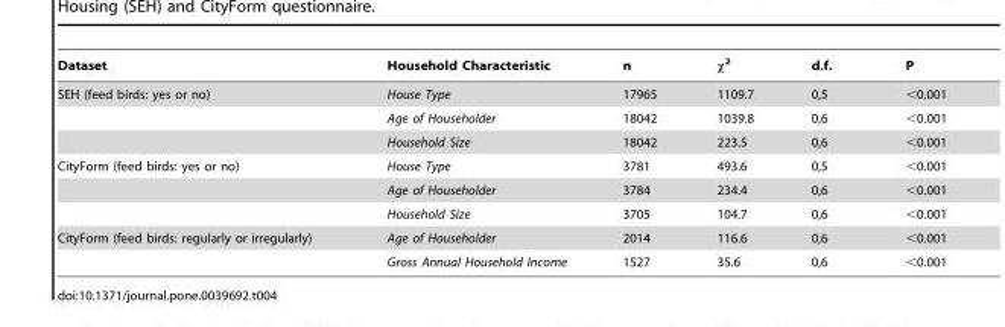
<table><thead><tr><td>Dataset</td><td>Household Characteristic</td><td>n</td><td>κ<sup>2</sup></td><td>d.f.</td><td>P</td></tr></thead><tbody><tr><td rowspan="3">SEH (feed birds: yes or no)</td><td>House Type</td><td>17965</td><td>1109.7</td><td>0,5</td><td>&lt;0.001</td></tr><tr><td>Age of Householder</td><td>18042</td><td>1039.8</td><td>0,6</td><td>&lt;0.001</td></tr><tr><td>Household Size</td><td>18042</td><td>223.5</td><td>0,6</td><td>&lt;0.001</td></tr><tr><td rowspan="3">CityForm (feed birds: yes or no)</td><td>House Type</td><td>3781</td><td>493.6</td><td>0,5</td><td>&lt;0.001</td></tr><tr><td>Age of Householder</td><td>3784</td><td>234.4</td><td>0,6</td><td>&lt;0.001</td></tr><tr><td>Household Size</td><td>3705</td><td>104.7</td><td>0,6</td><td>&lt;0.001</td></tr><tr><td rowspan="2">CityForm (feed birds: regularly or irregularly)</td><td>Age of Householder</td><td>2014</td><td>116.6</td><td>0,6</td><td>&lt;0.001</td></tr><tr><td>Gross Annual Household Income</td><td>1527</td><td>35.6</td><td>0,6</td><td>&lt;0.001</td></tr></tbody></table>